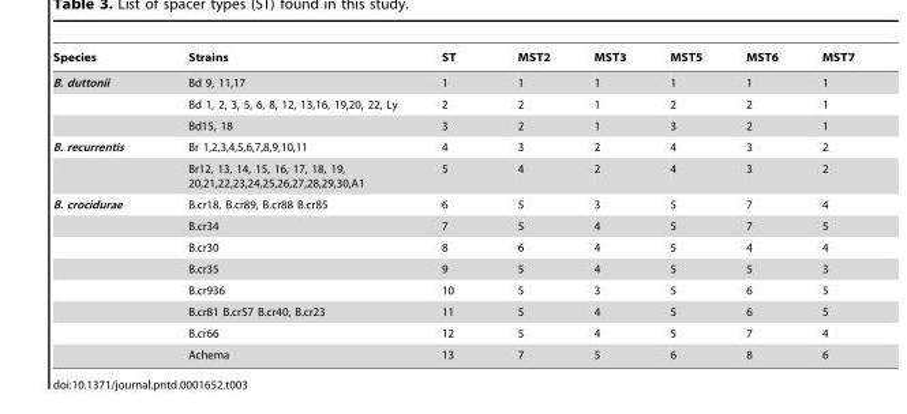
<table><thead><tr><td>Species</td><td>Strains</td><td>ST</td><td>MST2</td><td>MST3</td><td>MST5</td><td>MST6</td><td>MST7</td></tr></thead><tbody><tr><td rowspan="3">B. duttonii</td><td>Bd 9, 11,17</td><td>1</td><td>1</td><td>1</td><td>1</td><td>1</td><td>1</td></tr><tr><td>Bd 1, 2, 3, 5, 6, 8, 12, 13,16, 19,20, 22, Ly</td><td>2</td><td>2</td><td>1</td><td>2</td><td>2</td><td>1</td></tr><tr><td>Bd15, 18</td><td>3</td><td>2</td><td>1</td><td>3</td><td>2</td><td>1</td></tr><tr><td rowspan="2">B. recurrentis</td><td>Br 1,2,3,4,5,6,7,8,9,10,11</td><td>4</td><td>3</td><td>2</td><td>4</td><td>3</td><td>2</td></tr><tr><td>Br12, 13, 14, 15, 16, 17, 18, 19, 20,21,22,23,24,25,26,27,28,29,30,A1</td><td>5</td><td>4</td><td>2</td><td>4</td><td>3</td><td>2</td></tr><tr><td rowspan="8">B. crocidurae</td><td>B.cr18, B.cr89, B.cr88 B.cr85</td><td>6</td><td>5</td><td>3</td><td>5</td><td>7</td><td>4</td></tr><tr><td>B.cr34</td><td>7</td><td>5</td><td>4</td><td>5</td><td>7</td><td>5</td></tr><tr><td>B.cr30</td><td>8</td><td>6</td><td>4</td><td>5</td><td>4</td><td>4</td></tr><tr><td>B.cr35</td><td>9</td><td>5</td><td>4</td><td>5</td><td>5</td><td>3</td></tr><tr><td>B.cr936</td><td>10</td><td>5</td><td>3</td><td>5</td><td>6</td><td>5</td></tr><tr><td>B.cr81 B.cr57 B.cr40, B.cr23</td><td>11</td><td>5</td><td>4</td><td>5</td><td>6</td><td>5</td></tr><tr><td>B.cr66</td><td>12</td><td>5</td><td>4</td><td>5</td><td>7</td><td>4</td></tr><tr><td>Achema</td><td>13</td><td>7</td><td>5</td><td>6</td><td>8</td><td>6</td></tr></tbody></table>